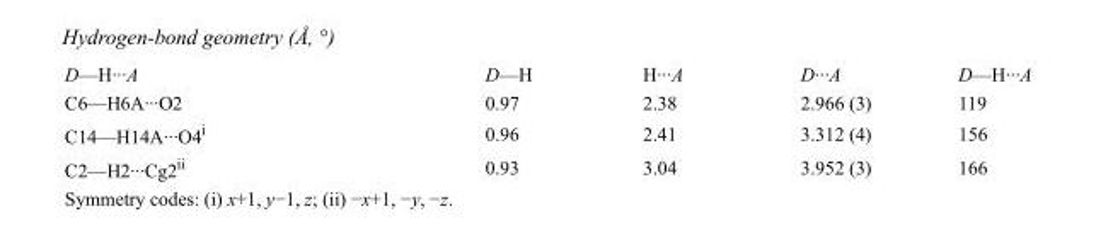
<table><tbody><tr><td>D—H···A</td><td>D—H</td><td>H···A</td><td>D···A</td><td>D—H···A</td></tr><tr><td>C6—H6A···O2</td><td>0.97</td><td>2.38</td><td>2.966 (3)</td><td>119</td></tr><tr><td>C14—H14A···O4<sup>i</sup></td><td>0.96</td><td>2.41</td><td>3.312 (4)</td><td>156</td></tr><tr><td>C2—H2···Cg2<sup>ii</sup></td><td>0.93</td><td>3.04</td><td>3.952 (3)</td><td>166</td></tr></tbody></table>